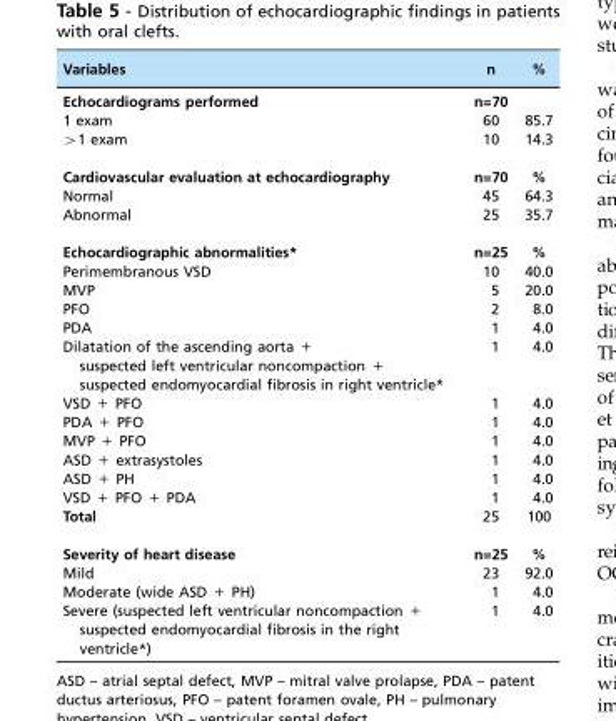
<table><thead><tr><td>Variables</td><td>n</td><td>%</td></tr></thead><tbody><tr><td>Echocardiograms performed</td><td>n=70</td><td></td></tr><tr><td>1 exam</td><td>60</td><td>85.7</td></tr><tr><td>&gt;1 exam</td><td>10</td><td>14.3</td></tr><tr><td>Cardiovascular evaluation at echocardiography</td><td>n=70</td><td>%</td></tr><tr><td>Normal</td><td>45</td><td>64.3</td></tr><tr><td>Abnormal</td><td>25</td><td>35.7</td></tr><tr><td>Echocardiographic abnormalities*</td><td>n=25</td><td>%</td></tr><tr><td>Perimembranous VSD</td><td>10</td><td>40.0</td></tr><tr><td>MVP</td><td>5</td><td>20.0</td></tr><tr><td>PFO</td><td>2</td><td>8.0</td></tr><tr><td>PDA</td><td>1</td><td>4.0</td></tr><tr><td>Dilatation of the ascending aorta + suspected left ventricular noncompaction + suspected endomyocardial fibrosis in right ventricle*</td><td>1</td><td>4.0</td></tr><tr><td>VSD + PFO</td><td>1</td><td>4.0</td></tr><tr><td>PDA + PFO</td><td>1</td><td>4.0</td></tr><tr><td>MVP + PFO</td><td>1</td><td>4.0</td></tr><tr><td>ASD + extrasystoles</td><td>1</td><td>4.0</td></tr><tr><td>ASD + PH</td><td>1</td><td>4.0</td></tr><tr><td>VSD + PFO + PDA</td><td>1</td><td>4.0</td></tr><tr><td>Total</td><td>25</td><td>100</td></tr><tr><td>Severity of heart disease</td><td>n=25</td><td>%</td></tr><tr><td>Mild</td><td>23</td><td>92.0</td></tr><tr><td>Moderate (wide ASD + PH)</td><td>1</td><td>4.0</td></tr><tr><td>Severe (suspected left ventricular noncompaction + suspected endomyocardial fibrosis in the right ventricle*)</td><td>1</td><td>4.0</td></tr></tbody></table>